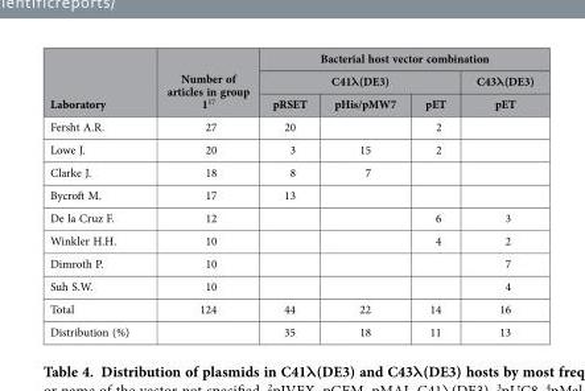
<table><thead><tr><td rowspan="3">Laboratory</td><td rowspan="3">Number of articles in group 1<sup>17</sup></td><td colspan="4">Bacterial host vector combination</td></tr><tr><td colspan="3">C41λ(DE3)</td><td rowspan="2">C43λ(DE3) pET</td></tr><tr><td>pRSET</td><td>pHis/pMW7</td><td>pET</td></tr></thead><tbody><tr><td>Fersht A.R.</td><td>27</td><td>20</td><td></td><td>2</td><td></td></tr><tr><td>Lowe J.</td><td>20</td><td>3</td><td>15</td><td>2</td><td></td></tr><tr><td>Clarke J.</td><td>18</td><td>8</td><td>7</td><td></td><td></td></tr><tr><td>Bycroft M.</td><td>17</td><td>13</td><td></td><td></td><td></td></tr><tr><td>De la Cruz F.</td><td>12</td><td></td><td></td><td>6</td><td>3</td></tr><tr><td>Winkler H.H.</td><td>10</td><td></td><td></td><td>4</td><td>2</td></tr><tr><td>Dimroth P.</td><td>10</td><td></td><td></td><td></td><td>7</td></tr><tr><td>Suh S.W.</td><td>10</td><td></td><td></td><td></td><td>4</td></tr><tr><td>Total</td><td>124</td><td>44</td><td>22</td><td>14</td><td>16</td></tr><tr><td>Distribution (%)</td><td></td><td>35</td><td>18</td><td>11</td><td>13</td></tr></tbody></table>